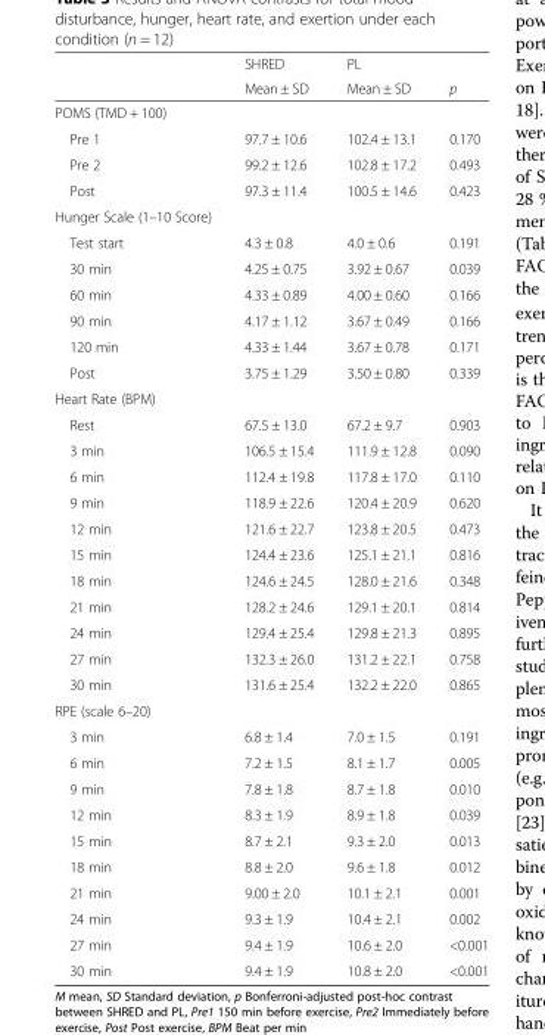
<table><thead><tr><td rowspan="2"></td><td rowspan="2">SHRED Mean ± SD</td><td rowspan="2">PL Mean ± SD</td><td rowspan="2">p</td></tr><tr></tr></thead><tbody><tr><td colspan="4">POMS (TMD + 100)</td></tr><tr><td>Pre 1</td><td>97.7 ± 10.6</td><td>102.4 ± 13.1</td><td>0.170</td></tr><tr><td>Pre 2</td><td>99.2 ± 12.6</td><td>102.8 ± 17.2</td><td>0.493</td></tr><tr><td>Post</td><td>97.3 ± 11.4</td><td>100.5 ± 14.6</td><td>0.423</td></tr><tr><td colspan="4">Hunger Scale (1–10 Score)</td></tr><tr><td>Test start</td><td>4.3 ± 0.8</td><td>4.0 ± 0.6</td><td>0.191</td></tr><tr><td>30 min</td><td>4.25 ± 0.75</td><td>3.92 ± 0.67</td><td>0.039</td></tr><tr><td>60 min</td><td>4.33 ± 0.89</td><td>4.00 ± 0.60</td><td>0.166</td></tr><tr><td>90 min</td><td>4.17 ± 1.12</td><td>3.67 ± 0.49</td><td>0.166</td></tr><tr><td>120 min</td><td>4.33 ± 1.44</td><td>3.67 ± 0.78</td><td>0.171</td></tr><tr><td>Post</td><td>3.75 ± 1.29</td><td>3.50 ± 0.80</td><td>0.339</td></tr><tr><td colspan="4">Heart Rate (BPM)</td></tr><tr><td>Rest</td><td>67.5 ± 13.0</td><td>67.2 ± 9.7</td><td>0.903</td></tr><tr><td>3 min</td><td>106.5 ± 15.4</td><td>111.9 ± 12.8</td><td>0.090</td></tr><tr><td>6 min</td><td>112.4 ± 19.8</td><td>117.8 ± 17.0</td><td>0.110</td></tr><tr><td>9 min</td><td>118.9 ± 22.6</td><td>120.4 ± 20.9</td><td>0.620</td></tr><tr><td>12 min</td><td>121.6 ± 22.7</td><td>123.8 ± 20.5</td><td>0.473</td></tr><tr><td>15 min</td><td>124.4 ± 23.6</td><td>125.1 ± 21.1</td><td>0.816</td></tr><tr><td>18 min</td><td>124.6 ± 24.5</td><td>128.0 ± 21.6</td><td>0.348</td></tr><tr><td>21 min</td><td>128.2 ± 24.6</td><td>129.1 ± 20.1</td><td>0.814</td></tr><tr><td>24 min</td><td>129.4 ± 25.4</td><td>129.8 ± 21.3</td><td>0.895</td></tr><tr><td>27 min</td><td>132.3 ± 26.0</td><td>131.2 ± 22.1</td><td>0.758</td></tr><tr><td>30 min</td><td>131.6 ± 25.4</td><td>132.2 ± 22.0</td><td>0.865</td></tr><tr><td colspan="4">RPE (scale 6–20)</td></tr><tr><td>3 min</td><td>6.8 ± 1.4</td><td>7.0 ± 1.5</td><td>0.191</td></tr><tr><td>6 min</td><td>7.2 ± 1.5</td><td>8.1 ± 1.7</td><td>0.005</td></tr><tr><td>9 min</td><td>7.8 ± 1.8</td><td>8.7 ± 1.8</td><td>0.010</td></tr><tr><td>12 min</td><td>8.3 ± 1.9</td><td>8.9 ± 1.8</td><td>0.039</td></tr><tr><td>15 min</td><td>8.7 ± 2.1</td><td>9.3 ± 2.0</td><td>0.013</td></tr><tr><td>18 min</td><td>8.8 ± 2.0</td><td>9.6 ± 1.8</td><td>0.012</td></tr><tr><td>21 min</td><td>9.00 ± 2.0</td><td>10.1 ± 2.1</td><td>0.001</td></tr><tr><td>24 min</td><td>9.3 ± 1.9</td><td>10.4 ± 2.1</td><td>0.002</td></tr><tr><td>27 min</td><td>9.4 ± 1.9</td><td>10.6 ± 2.0</td><td>&lt;0.001</td></tr><tr><td>30 min</td><td>9.4 ± 1.9</td><td>10.8 ± 2.0</td><td>&lt;0.001</td></tr></tbody></table>